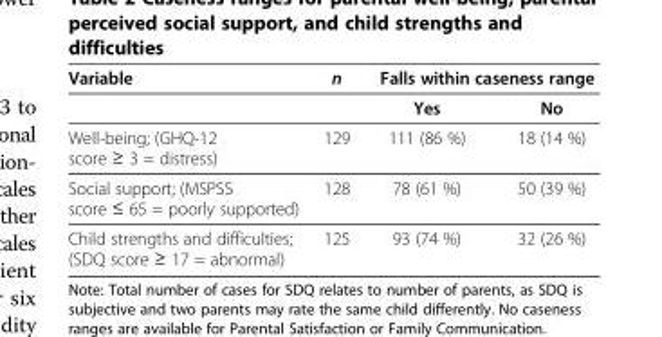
<table><thead><tr><td rowspan="2">Variable</td><td rowspan="2">n</td><td colspan="2">Falls within caseness range</td></tr><tr><td>Yes</td><td>No</td></tr></thead><tbody><tr><td>Well-being; (GHQ-12 score ≥ 3 = distress)</td><td>129</td><td>111 (86 %)</td><td>18 (14 %)</td></tr><tr><td>Social support; (MSPSS score ≤ 65 = poorly supported)</td><td>128</td><td>78 (61 %)</td><td>50 (39 %)</td></tr><tr><td>Child strengths and difficulties; (SDQ score ≥ 17 = abnormal)</td><td>125</td><td>93 (74 %)</td><td>32 (26 %)</td></tr></tbody></table>